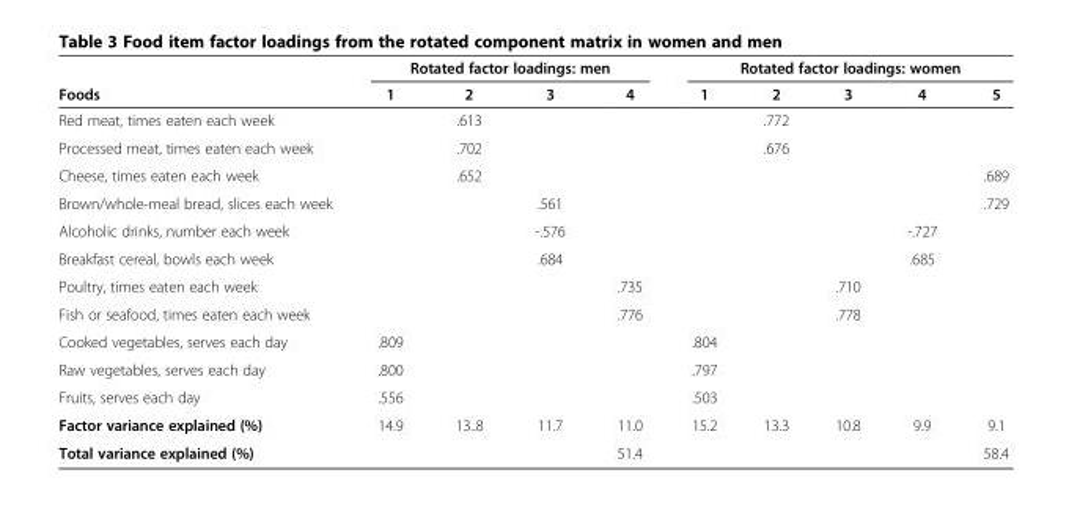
<table><thead><tr><td rowspan="2">Foods</td><td colspan="4">Rotated factor loadings: men</td><td colspan="5">Rotated factor loadings: women</td></tr><tr><td>1</td><td>2</td><td>3</td><td>4</td><td>1</td><td>2</td><td>3</td><td>4</td><td>5</td></tr></thead><tbody><tr><td>Red meat, times eaten each week</td><td></td><td>.613</td><td></td><td></td><td></td><td>.772</td><td></td><td></td><td></td></tr><tr><td>Processed meat, times eaten each week</td><td></td><td>.702</td><td></td><td></td><td></td><td>.676</td><td></td><td></td><td></td></tr><tr><td>Cheese, times eaten each week</td><td></td><td>.652</td><td></td><td></td><td></td><td></td><td></td><td></td><td>.689</td></tr><tr><td>Brown/whole-meal bread, slices each week</td><td></td><td></td><td>.561</td><td></td><td></td><td></td><td></td><td></td><td>.729</td></tr><tr><td>Alcoholic drinks, number each week</td><td></td><td></td><td>-.576</td><td></td><td></td><td></td><td></td><td>-.727</td><td></td></tr><tr><td>Breakfast cereal, bowls each week</td><td></td><td></td><td>.684</td><td></td><td></td><td></td><td></td><td>.685</td><td></td></tr><tr><td>Poultry, times eaten each week</td><td></td><td></td><td></td><td>.735</td><td></td><td></td><td>.710</td><td></td><td></td></tr><tr><td>Fish or seafood, times eaten each week</td><td></td><td></td><td></td><td>.776</td><td></td><td></td><td>.778</td><td></td><td></td></tr><tr><td>Cooked vegetables, serves each day</td><td>.809</td><td></td><td></td><td></td><td>.804</td><td></td><td></td><td></td><td></td></tr><tr><td>Raw vegetables, serves each day</td><td>.800</td><td></td><td></td><td></td><td>.797</td><td></td><td></td><td></td><td></td></tr><tr><td>Fruits, serves each day</td><td>.556</td><td></td><td></td><td></td><td>.503</td><td></td><td></td><td></td><td></td></tr><tr><td>Factor variance explained (%)</td><td>14.9</td><td>13..8</td><td>11.7</td><td>11.0</td><td>15.2</td><td>13.3</td><td>10.8</td><td>9.9</td><td>9.1</td></tr><tr><td>Total variance explained (%)</td><td></td><td></td><td></td><td>51.4</td><td></td><td></td><td></td><td></td><td>58.4</td></tr></tbody></table>